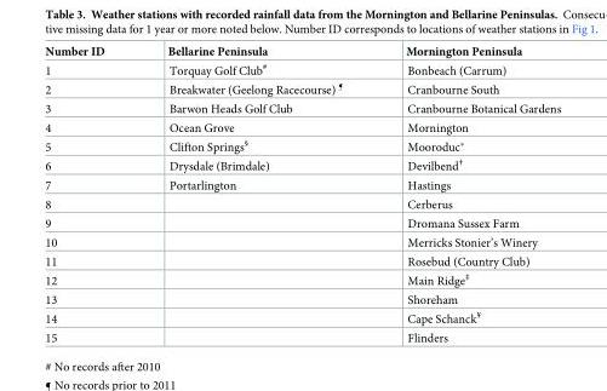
<table><thead><tr><td>Number ID</td><td>Bellarine Peninsula</td><td>Mornington Peninsula</td></tr></thead><tbody><tr><td>1</td><td>Torquay Golf Club<sup>#</sup></td><td>Bonbeach (Carrum)</td></tr><tr><td>2</td><td>Breakwater (Geelong Racecourse) <sup>¶</sup></td><td>Cranbourne South</td></tr><tr><td>3</td><td>Barwon Heads Golf Club</td><td>Cranbourne Botanical Gardens</td></tr><tr><td>4</td><td>Ocean Grove</td><td>Mornington</td></tr><tr><td>5</td><td>Clifton Springs<sup>§</sup></td><td>Mooroduc*</td></tr><tr><td>6</td><td>Drysdale (Brimdale)</td><td>Devilbend<sup>†</sup></td></tr><tr><td>7</td><td>Portarlington</td><td>Hastings</td></tr><tr><td>8</td><td></td><td>Cerberus</td></tr><tr><td>9</td><td></td><td>Dromana Sussex Farm</td></tr><tr><td>10</td><td></td><td>Merricks Stonier’s Winery</td></tr><tr><td>11</td><td></td><td>Rosebud (Country Club)</td></tr><tr><td>12</td><td></td><td>Main Ridge<sup>‡</sup></td></tr><tr><td>13</td><td></td><td>Shoreham</td></tr><tr><td>14</td><td></td><td>Cape Schanck<sup>¥</sup></td></tr><tr><td>15</td><td></td><td>Flinders</td></tr></tbody></table>